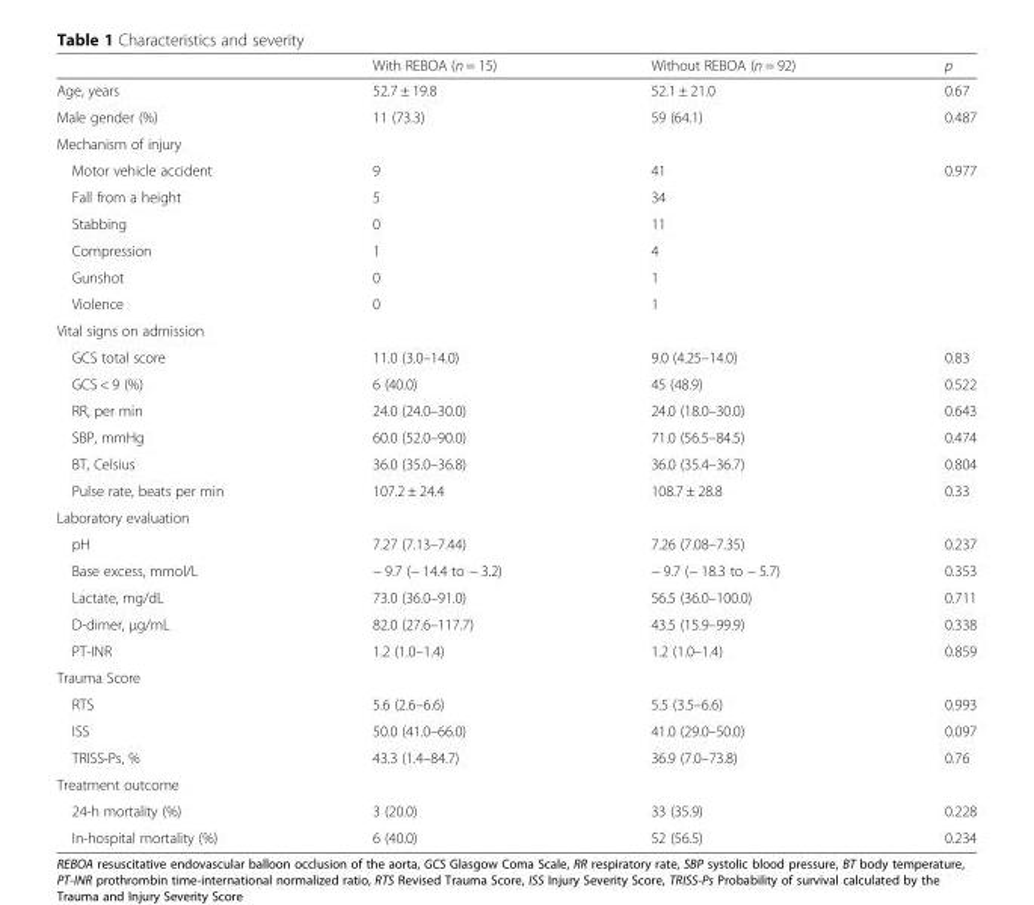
<table><thead><tr><td></td><td>With REBOA (n = 15)</td><td>Without REBOA (n = 92)</td><td>p</td></tr></thead><tbody><tr><td>Age, years</td><td>52.7 ± 19.8</td><td>52.1 ± 21.0</td><td>0.67</td></tr><tr><td>Male gender (%)</td><td>11 (73.3)</td><td>59 (64.1)</td><td>0.487</td></tr><tr><td colspan="4">Mechanism of injury</td></tr><tr><td>Motor vehicle accident</td><td>9</td><td>41</td><td>0.977</td></tr><tr><td>Fall from a height</td><td>5</td><td>34</td><td></td></tr><tr><td>Stabbing</td><td>0</td><td>11</td><td></td></tr><tr><td>Compression</td><td>1</td><td>4</td><td></td></tr><tr><td>Gunshot</td><td>0</td><td>1</td><td></td></tr><tr><td>Violence</td><td>0</td><td>1</td><td></td></tr><tr><td colspan="4">Vital signs on admission</td></tr><tr><td>GCS total score</td><td>11.0 (3.0–14.0)</td><td>9.0 (4.25–14.0)</td><td>0.83</td></tr><tr><td>GCS &lt; 9 (%)</td><td>6 (40.0)</td><td>45 (48.9)</td><td>0.522</td></tr><tr><td>RR, per min</td><td>24.0 (24.0–30.0)</td><td>24.0 (18.0–30.0)</td><td>0.643</td></tr><tr><td>SBP, mmHg</td><td>60.0 (52.0–90.0)</td><td>71.0 (56.5–84.5)</td><td>0.474</td></tr><tr><td>BT, Celsius</td><td>36.0 (35.0–36.8)</td><td>36.0 (35.4–36.7)</td><td>0.804</td></tr><tr><td>Pulse rate, beats per min</td><td>107.2 ± 24.4</td><td>108.7 ± 28.8</td><td>0.33</td></tr><tr><td colspan="4">Laboratory evaluation</td></tr><tr><td>pH</td><td>7.27 (7.13–7.44)</td><td>7.26 (7.08–7.35)</td><td>0.237</td></tr><tr><td>Base excess, mmol/L</td><td>− 9.7 (− 14.4 to − 3.2)</td><td>− 9.7 (− 18.3 to − 5.7)</td><td>0.353</td></tr><tr><td>Lactate, mg/dL</td><td>73.0 (36.0–91.0)</td><td>56.5 (36.0–100.0)</td><td>0.711</td></tr><tr><td>D-dimer, μg/mL</td><td>82.0 (27.6–117.7)</td><td>43.5 (15.9–99.9)</td><td>0.338</td></tr><tr><td>PT-INR</td><td>1.2 (1.0–1.4)</td><td>1.2 (1.0–1.4)</td><td>0.859</td></tr><tr><td colspan="4">Trauma Score</td></tr><tr><td>RTS</td><td>5.6 (2.6–6.6)</td><td>5.5 (3.5–6.6)</td><td>0.993</td></tr><tr><td>ISS</td><td>50.0 (41.0–66.0)</td><td>41.0 (29.0–50.0)</td><td>0.097</td></tr><tr><td>TRISS-Ps, %</td><td>43.3 (1.4–84.7)</td><td>36.9 (7.0–73.8)</td><td>0.76</td></tr><tr><td colspan="4">Treatment outcome</td></tr><tr><td>24-h mortality (%)</td><td>3 (20.0)</td><td>33 (35.9)</td><td>0.228</td></tr><tr><td>In-hospital mortality (%)</td><td>6 (40.0)</td><td>52 (56.5)</td><td>0.234</td></tr></tbody></table>